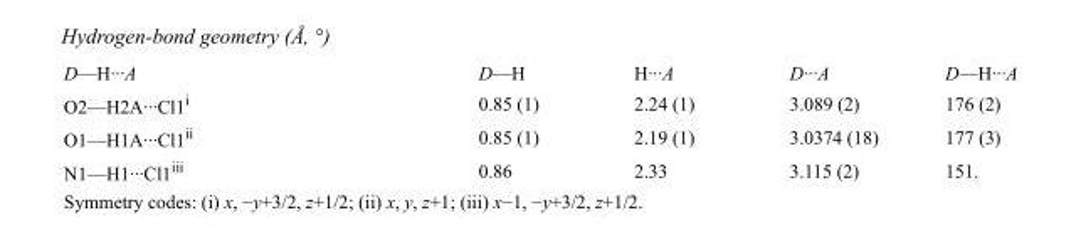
<table><tbody><tr><td>D—H···A</td><td>D—H</td><td>H···A</td><td>D···A</td><td>D—H···A</td></tr><tr><td>O2—H2A···Cl1<sup>i</sup></td><td>0.85 (1)</td><td>2.24 (1)</td><td>3.089 (2)</td><td>176 (2)</td></tr><tr><td>O1—H1A···Cl1<sup>ii</sup></td><td>0.85 (1)</td><td>2.19 (1)</td><td>3.0374 (18)</td><td>177 (3)</td></tr><tr><td>N1—H1···Cl1<sup>iii</sup></td><td>0.86</td><td>2.33</td><td>3.115 (2)</td><td>151.</td></tr></tbody></table>